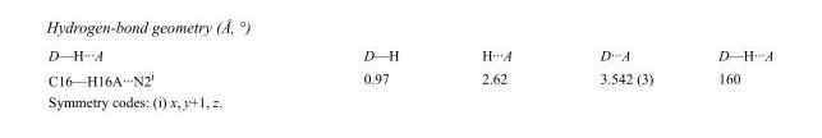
<table><tbody><tr><td>D—H···A</td><td>D—H</td><td>H···A</td><td>D···A</td><td>D—H···A</td></tr><tr><td>C16—H16A···N2<sup>i</sup></td><td>0.97</td><td>2.62</td><td>3.542 (3)</td><td>160</td></tr></tbody></table>